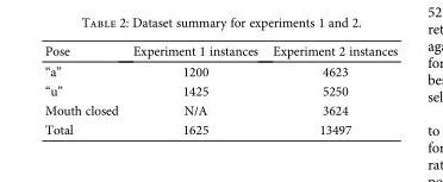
<table><thead><tr><td>Pose</td><td>Experiment 1 instances</td><td>Experiment 2 instances</td></tr></thead><tbody><tr><td>“a”</td><td>1200</td><td>4623</td></tr><tr><td>“u”</td><td>1425</td><td>5250</td></tr><tr><td>Mouth closed</td><td>N/A</td><td>3624</td></tr><tr><td>Total</td><td>1625</td><td>13497</td></tr></tbody></table>